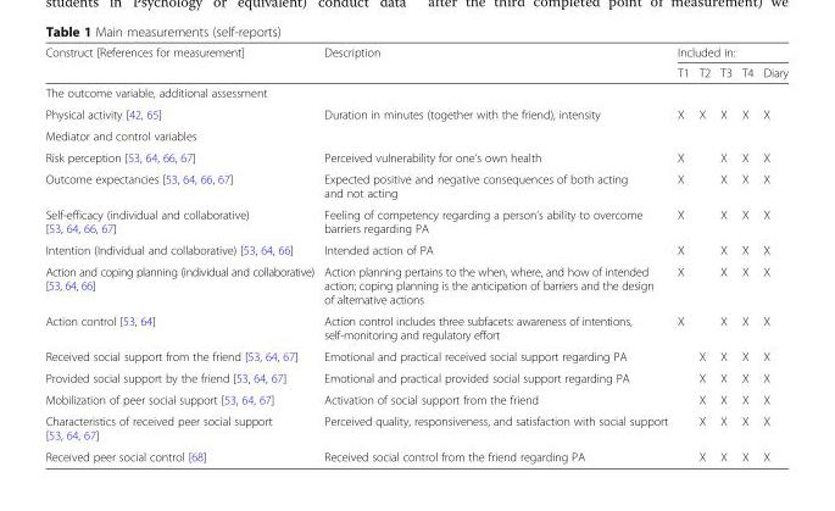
<table><thead><tr><td rowspan="2">Construct [References for measurement]</td><td rowspan="2">Description</td><td colspan="5">Included in:</td></tr><tr><td>T1</td><td>T2</td><td>T3</td><td>T4</td><td>Diary</td></tr></thead><tbody><tr><td colspan="7">The outcome variable, additional assessment</td></tr><tr><td>Physical activity [42, 65]</td><td>Duration in minutes (together with the friend), intensity</td><td>X</td><td>X</td><td>X</td><td>X</td><td>X</td></tr><tr><td colspan="7">Mediator and control variables</td></tr><tr><td>Risk perception [53, 64, 66, 67]</td><td>Perceived vulnerability for one’s own health</td><td>X</td><td></td><td>X</td><td>X</td><td>X</td></tr><tr><td>Outcome expectancies [53, 64, 66, 67]</td><td>Expected positive and negative consequences of both acting and not acting</td><td>X</td><td></td><td>X</td><td>X</td><td>X</td></tr><tr><td>Self-efficacy (individual and collaborative) [53, 64, 66, 67]</td><td>Feeling of competency regarding a person’s ability to overcome barriers regarding PA</td><td>X</td><td></td><td>X</td><td>X</td><td>X</td></tr><tr><td>Intention (Individual and collaborative) [53, 64, 66]</td><td>Intended action of PA</td><td>X</td><td></td><td>X</td><td>X</td><td>X</td></tr><tr><td>Action and coping planning (individual and collaborative) [53, 64, 66]</td><td>Action planning pertains to the when, where, and how of intended action; coping planning is the anticipation of barriers and the design of alternative actions</td><td>X</td><td></td><td>X</td><td>X</td><td>X</td></tr><tr><td>Action control [53, 64]</td><td>Action control includes three subfacets: awareness of intentions, self-monitoring and regulatory effort</td><td>X</td><td></td><td>X</td><td>X</td><td>X</td></tr><tr><td>Received social support from the friend [53, 64, 67]</td><td>Emotional and practical received social support regarding PA</td><td></td><td>X</td><td>X</td><td>X</td><td>X</td></tr><tr><td>Provided social support by the friend [53, 64, 67]</td><td>Emotional and practical provided social support regarding PA</td><td></td><td>X</td><td>X</td><td>X</td><td>X</td></tr><tr><td>Mobilization of peer social support [53, 64, 67]</td><td>Activation of social support from the friend</td><td></td><td>X</td><td>X</td><td>X</td><td>X</td></tr><tr><td>Characteristics of received peer social support [53, 64, 67]</td><td>Perceived quality, responsiveness, and satisfaction with social support</td><td></td><td>X</td><td>X</td><td>X</td><td>X</td></tr><tr><td>Received peer social control [68]</td><td>Received social control from the friend regarding PA</td><td></td><td>X</td><td>X</td><td>X</td><td>X</td></tr></tbody></table>